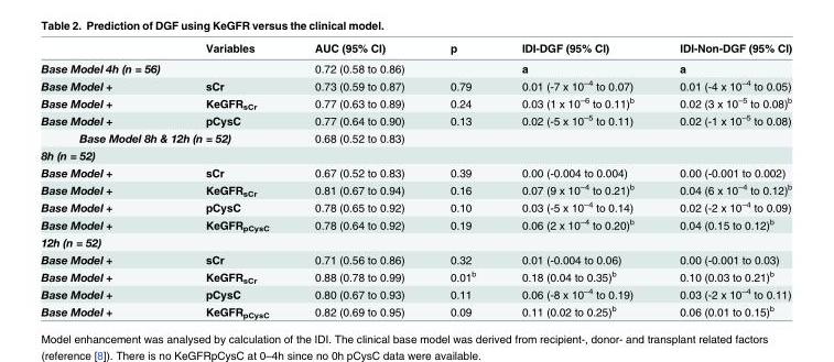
<table><thead><tr><td></td><td>Variables</td><td>AUC (95% CI)</td><td>p</td><td>IDI-DGF (95% CI)</td><td>IDI-Non-DGF (95% CI)</td></tr></thead><tbody><tr><td>Base Model 4h (n = 56)</td><td></td><td>0.72 (0.58 to 0.86)</td><td></td><td>a</td><td>a</td></tr><tr><td>Base Model +</td><td>sCr</td><td>0.73 (0.59 to 0.87)</td><td>0.79</td><td>0.01 (-7 x 10<sup>–4</sup> to 0.07)</td><td>0.01 (-4 x 10<sup>–4</sup> to 0.05)</td></tr><tr><td>Base Model +</td><td>KeGFR<sub>sCr</sub></td><td>0.77 (0.63 to 0.89)</td><td>0.24</td><td>0.03 (1 x 10<sup>–6</sup> to 0.11)<sup>b</sup></td><td>0.02 (3 x 10<sup>–5</sup> to 0.08)<sup>b</sup></td></tr><tr><td>Base Model +</td><td>pCysC</td><td>0.77 (0.64 to 0.90)</td><td>0.13</td><td>0.02 (-5 x 10<sup>–5</sup> to 0.11)</td><td>0.02 (-1 x 10<sup>–5</sup> to 0.08)</td></tr><tr><td colspan="2">Base Model 8h &amp; 12h (n = 52)</td><td>0.68 (0.52 to 0.83)</td><td></td><td></td><td></td></tr><tr><td colspan="6">8h (n = 52)</td></tr><tr><td>Base Model +</td><td>sCr</td><td>0.67 (0.52 to 0.83)</td><td>0.39</td><td>0.00 (-0.004 to 0.004)</td><td>0.00 (-0.001 to 0.002)</td></tr><tr><td>Base Model +</td><td>KeGFR<sub>sCr</sub></td><td>0.81 (0.67 to 0.94)</td><td>0.16</td><td>0.07 (9 x 10<sup>–4</sup> to 0.21)<sup>b</sup></td><td>0.04 (6 x 10<sup>–4</sup> to 0.12)<sup>b</sup></td></tr><tr><td>Base Model +</td><td>pCysC</td><td>0.78 (0.65 to 0.92)</td><td>0.10</td><td>0.03 (-5 x 10<sup>–4</sup> to 0.14)</td><td>0.02 (-2 x 10<sup>–4</sup> to 0.09)</td></tr><tr><td>Base Model +</td><td>KeGFR<sub>pCysC</sub></td><td>0.78 (0.64 to 0.92)</td><td>0.19</td><td>0.06 (2 x 10<sup>–4</sup> to 0.20)<sup>b</sup></td><td>0.04 (0.15 to 0.12)<sup>b</sup></td></tr><tr><td colspan="6">12h (n = 52)</td></tr><tr><td>Base Model +</td><td>sCr</td><td>0.71 (0.56 to 0.86)</td><td>0.32</td><td>0.01 (-0.004 to 0.06)</td><td>0.00 (-0.001 to 0.03)</td></tr><tr><td>Base Model +</td><td>KeGFR<sub>sCr</sub></td><td>0.88 (0.78 to 0.99)</td><td>0.01<sup>b</sup></td><td>0.18 (0.04 to 0.35)<sup>b</sup></td><td>0.10 (0.03 to 0.21)<sup>b</sup></td></tr><tr><td>Base Model +</td><td>pCysC</td><td>0.80 (0.67 to 0.93)</td><td>0.11</td><td>0.06 (-8 x 10<sup>–4</sup> to 0.19)</td><td>0.03 (-2 x 10<sup>–4</sup> to 0.11)</td></tr><tr><td>Base Model +</td><td>KeGFR<sub>pCysC</sub></td><td>0.82 (0.69 to 0.95)</td><td>0.09</td><td>0.11 (0.02 to 0.25)<sup>b</sup></td><td>0.06 (0.01 to 0.15)<sup>b</sup></td></tr></tbody></table>